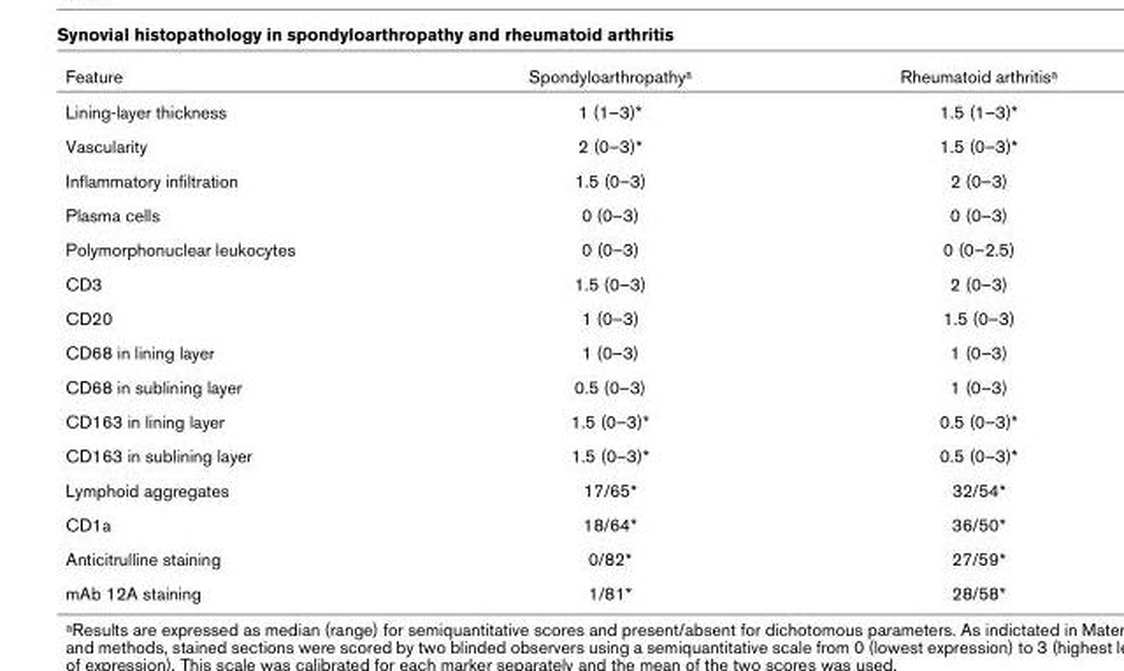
<table><thead><tr><td>Feature</td><td>Spondyloarthropathya</td><td>Rheumatoid arthritisa</td></tr></thead><tbody><tr><td>Lining-layer thickness</td><td>1 (1–3)*</td><td>1.5 (1–3)*</td></tr><tr><td>Vascularity</td><td>2 (0–3)*</td><td>1.5 (0–3)*</td></tr><tr><td>Inflammatory infiltration</td><td>1.5 (0–3)</td><td>2 (0–3)</td></tr><tr><td>Plasma cells</td><td>0 (0–3)</td><td>0 (0–3)</td></tr><tr><td>Polymorphonuclear leukocytes</td><td>0 (0–3)</td><td>0 (0–2.5)</td></tr><tr><td>CD3</td><td>1.5 (0–3)</td><td>2 (0–3)</td></tr><tr><td>CD20</td><td>1 (0–3)</td><td>1.5 (0–3)</td></tr><tr><td>CD68 in lining layer</td><td>1 (0–3)</td><td>1 (0–3)</td></tr><tr><td>CD68 in sublining layer</td><td>0.5 (0–3)</td><td>1 (0–3)</td></tr><tr><td>CD163 in lining layer</td><td>1.5 (0–3)*</td><td>0.5 (0–3)*</td></tr><tr><td>CD163 in sublining layer</td><td>1.5 (0–3)*</td><td>0.5 (0–3)*</td></tr><tr><td>Lymphoid aggregates</td><td>17/65*</td><td>32/54*</td></tr><tr><td>CD1a</td><td>18/64*</td><td>36/50*</td></tr><tr><td>Anticitrulline staining</td><td>0/82*</td><td>27/59*</td></tr><tr><td>mAb 12A staining</td><td>1/81*</td><td>28/58*</td></tr></tbody></table>